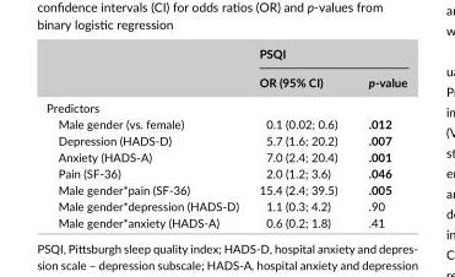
<table><thead><tr><td rowspan="2"></td><td colspan="2">PSQI</td></tr><tr><td>OR (95% CI)</td><td>p- value</td></tr></thead><tbody><tr><td colspan="3">Predictors</td></tr><tr><td>Male gender (vs. female)</td><td>0.1 (0.02; 0.6)</td><td>.012</td></tr><tr><td>Depression (HADS- D)</td><td>5.7 (1.6; 20.2)</td><td>.007</td></tr><tr><td>Anxiety (HADS- A)</td><td>7.0 (2.4; 20.4)</td><td>.001</td></tr><tr><td>Pain (SF- 36)</td><td>2.0 (1.2; 3.6)</td><td>.046</td></tr><tr><td>Male gender*pain (SF- 36)</td><td>15.4 (2.4; 39.5)</td><td>.005</td></tr><tr><td>Male gender*depression (HADS- D)</td><td>1.1 (0.3; 4.2)</td><td>.90</td></tr><tr><td>Male gender*anxiety (HADS- A)</td><td>0.6 (0.2; 1.8)</td><td>.41</td></tr></tbody></table>